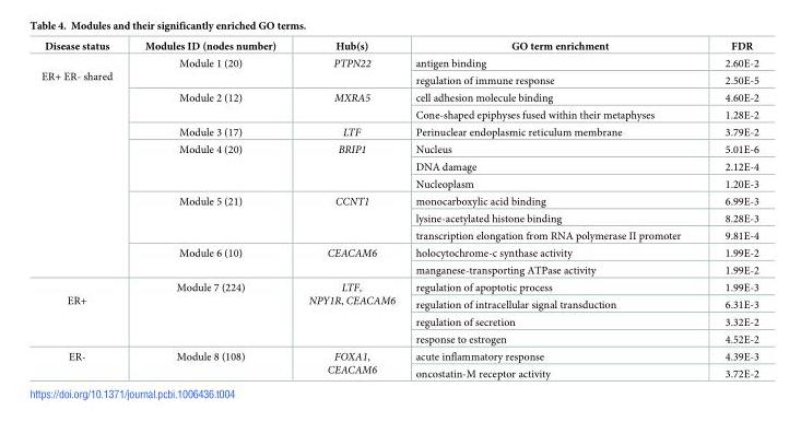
<table><thead><tr><td>Disease status</td><td>Modules ID (nodes number)</td><td>Hub(s)</td><td>GO term enrichment</td><td>FDR</td></tr></thead><tbody><tr><td rowspan="13">ER+ ER- shared</td><td rowspan="2">Module 1 (20)</td><td rowspan="2">PTPN22</td><td>antigen binding</td><td>2.60E-2</td></tr><tr><td>regulation of immune response</td><td>2.50E-5</td></tr><tr><td rowspan="2">Module 2 (12)</td><td rowspan="2">MXRA5</td><td>cell adhesion molecule binding</td><td>4.60E-2</td></tr><tr><td>Cone-shaped epiphyses fused within their metaphyses</td><td>1.28E-2</td></tr><tr><td>Module 3 (17)</td><td>LTF</td><td>Perinuclear endoplasmic reticulum membrane</td><td>3.79E-2</td></tr><tr><td rowspan="3">Module 4 (20)</td><td rowspan="3">BRIP1</td><td>Nucleus</td><td>5.01E-6</td></tr><tr><td>DNA damage</td><td>2.12E-4</td></tr><tr><td>Nucleoplasm</td><td>1.20E-3</td></tr><tr><td rowspan="3">Module 5 (21)</td><td rowspan="3">CCNT1</td><td>monocarboxylic acid binding</td><td>6.99E-3</td></tr><tr><td>lysine-acetylated histone binding</td><td>8.28E-3</td></tr><tr><td>transcription elongation from RNA polymerase II promoter</td><td>9.81E-4</td></tr><tr><td rowspan="2">Module 6 (10)</td><td rowspan="2">CEACAM6</td><td>holocytochrome-c synthase activity</td><td>1.99E-2</td></tr><tr><td>manganese-transporting ATPase activity</td><td>1.99E-2</td></tr><tr><td rowspan="4">ER+</td><td rowspan="4">Module 7 (224)</td><td rowspan="4">LTF, NPY1R, CEACAM6</td><td>regulation of apoptotic process</td><td>1.99E-3</td></tr><tr><td>regulation of intracellular signal transduction</td><td>6.31E-3</td></tr><tr><td>regulation of secretion</td><td>3.32E-2</td></tr><tr><td>response to estrogen</td><td>4.52E-2</td></tr><tr><td rowspan="2">ER-</td><td rowspan="2">Module 8 (108)</td><td rowspan="2">FOXA1, CEACAM6</td><td>acute inflammatory response</td><td>4.39E-3</td></tr><tr><td>oncostatin-M receptor activity</td><td>3.72E-2</td></tr></tbody></table>